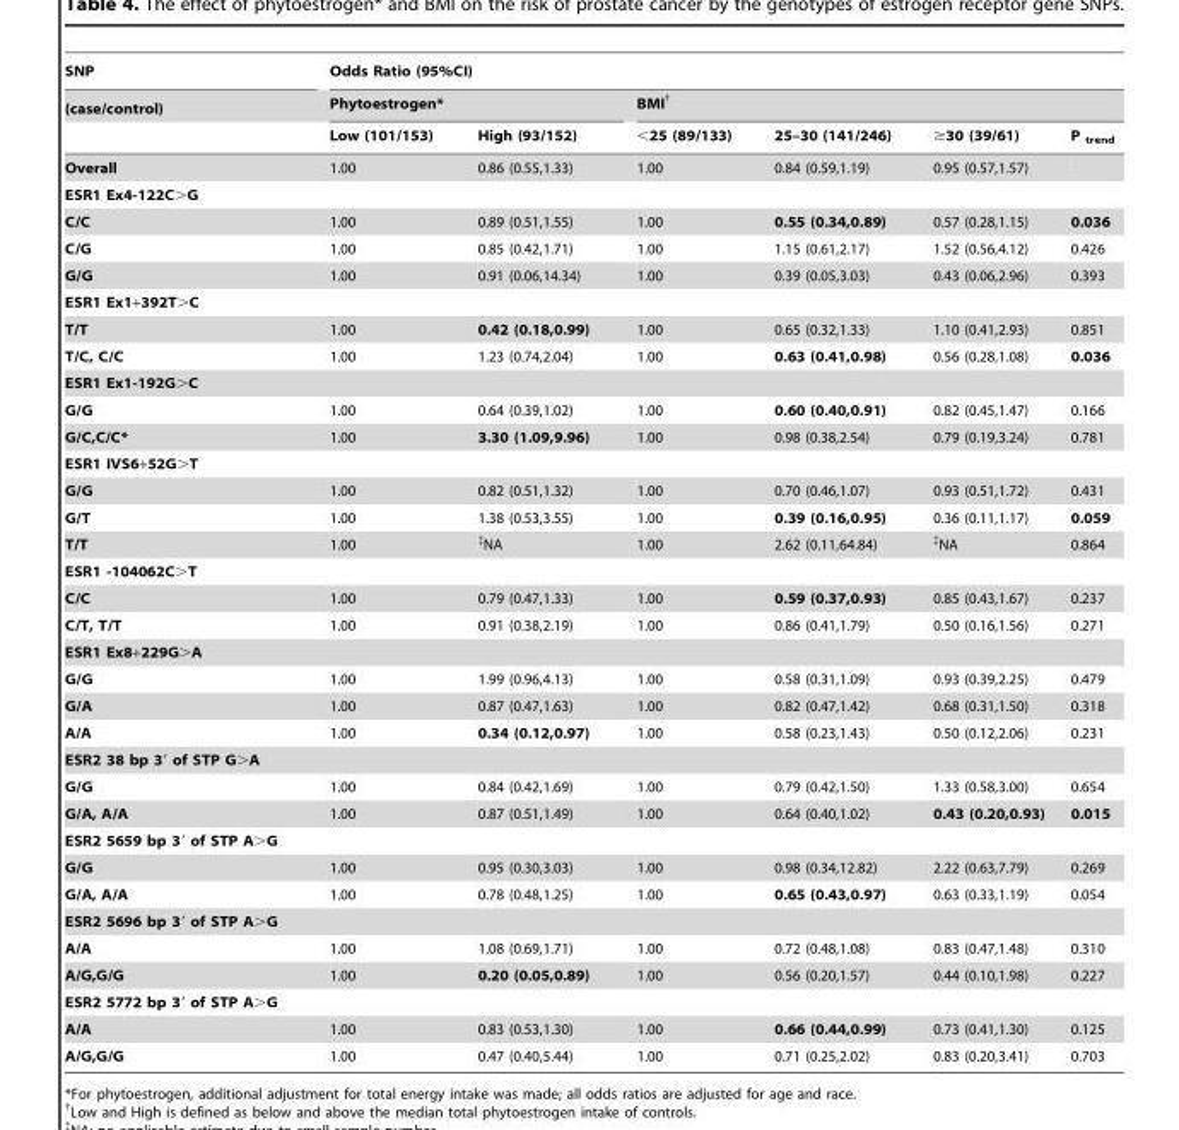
<table><thead><tr><td rowspan="3">SNP (case/control)</td><td colspan="6">Odds Ratio (95%CI)</td></tr><tr><td colspan="2">Phytoestrogen*</td><td colspan="4">BMI†</td></tr><tr><td>Low (101/153)</td><td>High (93/152)</td><td>&lt;25 (89/133)</td><td>25–30 (141/246)</td><td>≥30 (39/61)</td><td>P <sub>trend</sub></td></tr></thead><tbody><tr><td>Overall</td><td>1.00</td><td>0.86 (0.55,1.33)</td><td>1.00</td><td>0.84 (0.59,1.19)</td><td>0.95 (0.57,1.57)</td><td></td></tr><tr><td colspan="7">ESR1 Ex4-122C&gt;G</td></tr><tr><td>C/C</td><td>1.00</td><td>0.89 (0.51,1.55)</td><td>1.00</td><td>0.55 (0.34,0.89)</td><td>0.57 (0.28,1.15)</td><td>0.036</td></tr><tr><td>C/G</td><td>1.00</td><td>0.85 (0.42,1.71)</td><td>1.00</td><td>1.15 (0.61,2.17)</td><td>1.52 (0.56,4.12)</td><td>0.426</td></tr><tr><td>G/G</td><td>1.00</td><td>0.91 (0.06,14.34)</td><td>1.00</td><td>0.39 (0.05,3.03)</td><td>0.43 (0.06,2.96)</td><td>0.393</td></tr><tr><td colspan="7">ESR1 Ex1+392T&gt;C</td></tr><tr><td>T/T</td><td>1.00</td><td>0.42 (0.18,0.99)</td><td>1.00</td><td>0.65 (0.32,1.33)</td><td>1.10 (0.41,2.93)</td><td>0.851</td></tr><tr><td>T/C, C/C</td><td>1.00</td><td>1.23 (0.74,2.04)</td><td>1.00</td><td>0.63 (0.41,0.98)</td><td>0.56 (0.28,1.08)</td><td>0.036</td></tr><tr><td colspan="7">ESR1 Ex1-192G&gt;C</td></tr><tr><td>G/G</td><td>1.00</td><td>0.64 (0.39,1.02)</td><td>1.00</td><td>0.60 (0.40,0.91)</td><td>0.82 (0.45,1.47)</td><td>0.166</td></tr><tr><td>G/C,C/C*</td><td>1.00</td><td>3.30 (1.09,9.96)</td><td>1.00</td><td>0.98 (0.38,2.54)</td><td>0.79 (0.19,3.24)</td><td>0.781</td></tr><tr><td colspan="7">ESR1 IVS6+52G&gt;T</td></tr><tr><td>G/G</td><td>1.00</td><td>0.82 (0.51,1.32)</td><td>1.00</td><td>0.70 (0.46,1.07)</td><td>0.93 (0.51,1.72)</td><td>0.431</td></tr><tr><td>G/T</td><td>1.00</td><td>1.38 (0.53,3.55)</td><td>1.00</td><td>0.39 (0.16,0.95)</td><td>0.36 (0.11,1.17)</td><td>0.059</td></tr><tr><td>T/T</td><td>1.00</td><td>‡NA</td><td>1.00</td><td>2.62 (0.11,64.84)</td><td>‡NA</td><td>0.864</td></tr><tr><td colspan="7">ESR1 -104062C&gt;T</td></tr><tr><td>C/C</td><td>1.00</td><td>0.79 (0.47,1.33)</td><td>1.00</td><td>0.59 (0.37,0.93)</td><td>0.85 (0.43,1.67)</td><td>0.237</td></tr><tr><td>C/T, T/T</td><td>1.00</td><td>0.91 (0.38,2.19)</td><td>1.00</td><td>0.86 (0.41,1.79)</td><td>0.50 (0.16,1.56)</td><td>0.271</td></tr><tr><td colspan="7">ESR1 Ex8+229G&gt;A</td></tr><tr><td>G/G</td><td>1.00</td><td>1.99 (0.96,4.13)</td><td>1.00</td><td>0.58 (0.31,1.09)</td><td>0.93 (0.39,2.25)</td><td>0.479</td></tr><tr><td>G/A</td><td>1.00</td><td>0.87 (0.47,1.63)</td><td>1.00</td><td>0.82 (0.47,1.42)</td><td>0.68 (0.31,1.50)</td><td>0.318</td></tr><tr><td>A/A</td><td>1.00</td><td>0.34 (0.12,0.97)</td><td>1.00</td><td>0.58 (0.23,1.43)</td><td>0.50 (0.12,2.06)</td><td>0.231</td></tr><tr><td colspan="7">ESR2 38 bp 3′ of STP G&gt;A</td></tr><tr><td>G/G</td><td>1.00</td><td>0.84 (0.42,1.69)</td><td>1.00</td><td>0.79 (0.42,1.50)</td><td>1.33 (0.58,3.00)</td><td>0.654</td></tr><tr><td>G/A, A/A</td><td>1.00</td><td>0.87 (0.51,1.49)</td><td>1.00</td><td>0.64 (0.40,1.02)</td><td>0.43 (0.20,0.93)</td><td>0.015</td></tr><tr><td colspan="7">ESR2 5659 bp 3′ of STP A&gt;G</td></tr><tr><td>G/G</td><td>1.00</td><td>0.95 (0.30,3.03)</td><td>1.00</td><td>0.98 (0.34,12.82)</td><td>2.22 (0.63,7.79)</td><td>0.269</td></tr><tr><td>G/A, A/A</td><td>1.00</td><td>0.78 (0.48,1.25)</td><td>1.00</td><td>0.65 (0.43,0.97)</td><td>0.63 (0.33,1.19)</td><td>0.054</td></tr><tr><td colspan="7">ESR2 5696 bp 3′ of STP A&gt;G</td></tr><tr><td>A/A</td><td>1.00</td><td>1.08 (0.69,1.71)</td><td>1.00</td><td>0.72 (0.48,1.08)</td><td>0.83 (0.47,1.48)</td><td>0.310</td></tr><tr><td>A/G,G/G</td><td>1.00</td><td>0.20 (0.05,0.89)</td><td>1.00</td><td>0.56 (0.20,1.57)</td><td>0.44 (0.10,1.98)</td><td>0.227</td></tr><tr><td colspan="7">ESR2 5772 bp 3′ of STP A&gt;G</td></tr><tr><td>A/A</td><td>1.00</td><td>0.83 (0.53,1.30)</td><td>1.00</td><td>0.66 (0.44,0.99)</td><td>0.73 (0.41,1.30)</td><td>0.125</td></tr><tr><td>A/G,G/G</td><td>1.00</td><td>0.47 (0.40,5.44)</td><td>1.00</td><td>0.71 (0.25,2.02)</td><td>0.83 (0.20,3.41)</td><td>0.703</td></tr></tbody></table>